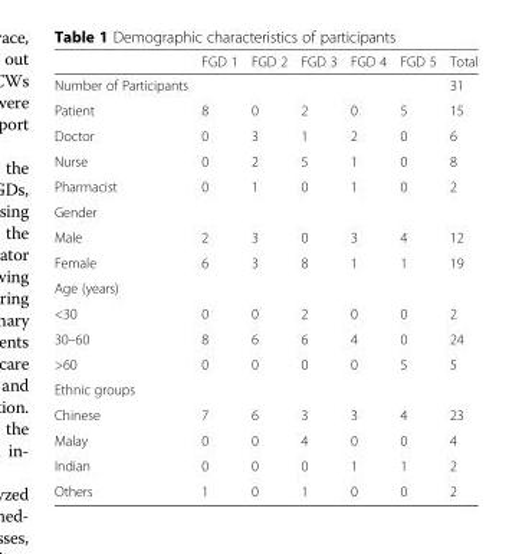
<table><thead><tr><td></td><td>FGD 1</td><td>FGD 2</td><td>FGD 3</td><td>FGD 4</td><td>FGD 5</td><td>Total</td></tr></thead><tbody><tr><td>Number of Participants</td><td colspan="5"></td><td>31</td></tr><tr><td>Patient</td><td>8</td><td>0</td><td>2</td><td>0</td><td>5</td><td>15</td></tr><tr><td>Doctor</td><td>0</td><td>3</td><td>1</td><td>2</td><td>0</td><td>6</td></tr><tr><td>Nurse</td><td>0</td><td>2</td><td>5</td><td>1</td><td>0</td><td>8</td></tr><tr><td>Pharmacist</td><td>0</td><td>1</td><td>0</td><td>1</td><td>0</td><td>2</td></tr><tr><td colspan="7">Gender</td></tr><tr><td>Male</td><td>2</td><td>3</td><td>0</td><td>3</td><td>4</td><td>12</td></tr><tr><td>Female</td><td>6</td><td>3</td><td>8</td><td>1</td><td>1</td><td>19</td></tr><tr><td colspan="7">Age (years)</td></tr><tr><td>&lt;30</td><td>0</td><td>0</td><td>2</td><td>0</td><td>0</td><td>2</td></tr><tr><td>30–60</td><td>8</td><td>6</td><td>6</td><td>4</td><td>0</td><td>24</td></tr><tr><td>&gt;60</td><td>0</td><td>0</td><td>0</td><td>0</td><td>5</td><td>5</td></tr><tr><td colspan="7">Ethnic groups</td></tr><tr><td>Chinese</td><td>7</td><td>6</td><td>3</td><td>3</td><td>4</td><td>23</td></tr><tr><td>Malay</td><td>0</td><td>0</td><td>4</td><td>0</td><td>0</td><td>4</td></tr><tr><td>Indian</td><td>0</td><td>0</td><td>0</td><td>1</td><td>1</td><td>2</td></tr><tr><td>Others</td><td>1</td><td>0</td><td>1</td><td>0</td><td>0</td><td>2</td></tr></tbody></table>